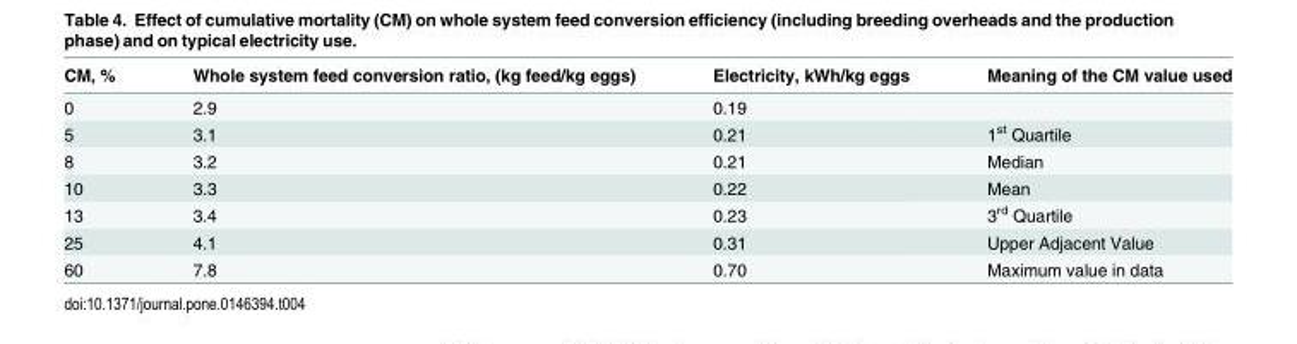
<table><thead><tr><td>CM, %</td><td>Whole system feed conversion ratio, (kg feed/kg eggs)</td><td>Electricity, kWh/kg eggs</td><td>Meaning of the CM value used</td></tr></thead><tbody><tr><td>0</td><td>2.9</td><td>0.19</td><td></td></tr><tr><td>5</td><td>3.1</td><td>0.21</td><td>1<sup>st</sup> Quartile</td></tr><tr><td>8</td><td>3.2</td><td>0.21</td><td>Median</td></tr><tr><td>10</td><td>3.3</td><td>0.22</td><td>Mean</td></tr><tr><td>13</td><td>3.4</td><td>0.23</td><td>3<sup>rd</sup> Quartile</td></tr><tr><td>25</td><td>4.1</td><td>0.31</td><td>Upper Adjacent Value</td></tr><tr><td>60</td><td>7.8</td><td>0.70</td><td>Maximum value in data</td></tr></tbody></table>